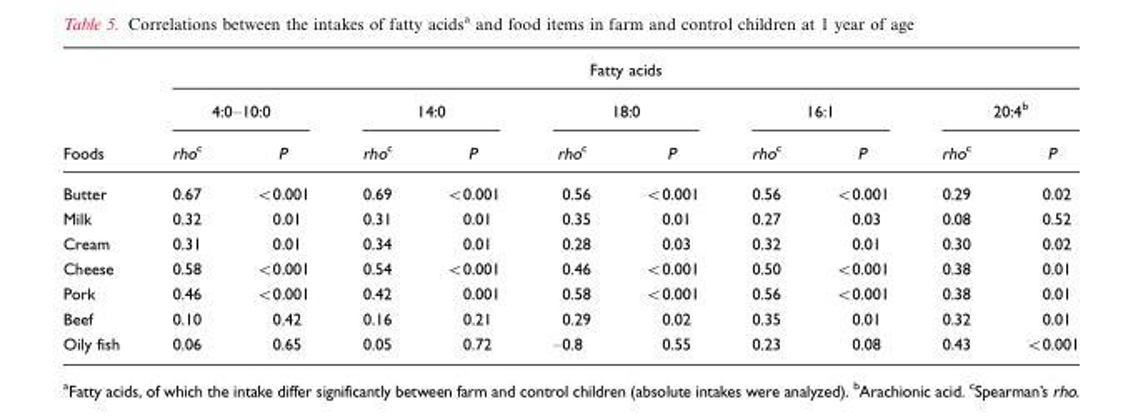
<table><thead><tr><td rowspan="3">Foods</td><td colspan="10">Fatty acids</td></tr><tr><td colspan="2">4:0–10:0</td><td colspan="2">14:0</td><td colspan="2">18:0</td><td colspan="2">16:1</td><td colspan="2">20:4<sup>b</sup></td></tr><tr><td>rho<sup>c</sup></td><td>P</td><td>rho<sup>c</sup></td><td>P</td><td>rho<sup>c</sup></td><td>P</td><td>rho<sup>c</sup></td><td>P</td><td>rho<sup>c</sup></td><td>P</td></tr></thead><tbody><tr><td>Butter</td><td>0.67</td><td>&lt;0.001</td><td>0.69</td><td>&lt;0.001</td><td>0.56</td><td>&lt;0.001</td><td>0.56</td><td>&lt;0.001</td><td>0.29</td><td>0.02</td></tr><tr><td>Milk</td><td>0.32</td><td>0.01</td><td>0.31</td><td>0.01</td><td>0.35</td><td>0.01</td><td>0.27</td><td>0.03</td><td>0.08</td><td>0.52</td></tr><tr><td>Cream</td><td>0.31</td><td>0.01</td><td>0.34</td><td>0.01</td><td>0.28</td><td>0.03</td><td>0.32</td><td>0.01</td><td>0.30</td><td>0.02</td></tr><tr><td>Cheese</td><td>0.58</td><td>&lt;0.001</td><td>0.54</td><td>&lt;0.001</td><td>0.46</td><td>&lt;0.001</td><td>0.50</td><td>&lt;0.001</td><td>0.38</td><td>0.01</td></tr><tr><td>Pork</td><td>0.46</td><td>&lt;0.001</td><td>0.42</td><td>0.001</td><td>0.58</td><td>&lt;0.001</td><td>0.56</td><td>&lt;0.001</td><td>0.38</td><td>0.01</td></tr><tr><td>Beef</td><td>0.10</td><td>0.42</td><td>0.16</td><td>0.21</td><td>0.29</td><td>0.02</td><td>0.35</td><td>0.01</td><td>0.32</td><td>0.01</td></tr><tr><td>Oily fish</td><td>0.06</td><td>0.65</td><td>0.05</td><td>0.72</td><td>–0.8</td><td>0.55</td><td>0.23</td><td>0.08</td><td>0.43</td><td>&lt;0.001</td></tr></tbody></table>